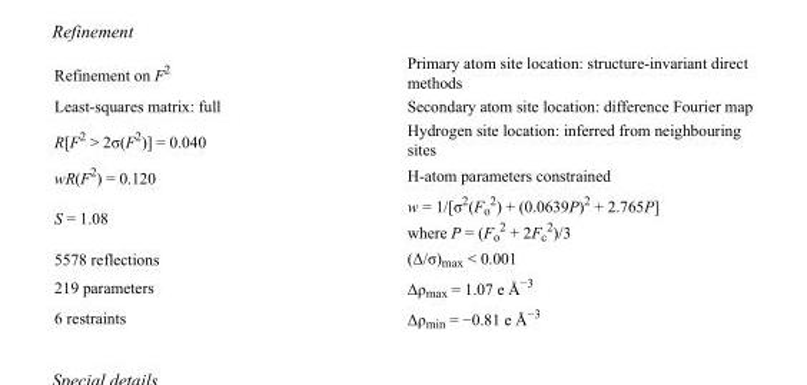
<table><tbody><tr><td>Refinement on F<sup>2</sup></td><td>Primary atom site location: structure-invariant direct methods</td></tr><tr><td>Least-squares matrix: full</td><td>Secondary atom site location: difference Fourier map</td></tr><tr><td>R[F<sup>2</sup> &gt; 2σ(F<sup>2</sup>)] = 0.040</td><td>Hydrogen site location: inferred from neighbouring sites</td></tr><tr><td>wR(F<sup>2</sup>) = 0.120</td><td>H-atom parameters constrained</td></tr><tr><td>S = 1.08</td><td>w = 1/[σ<sup>2</sup>(F<sub>o</sub> <sup>2</sup>) + (0.0639P)<sup>2</sup> + 2.765P] where P = (F<sub>o</sub> <sup>2</sup> + 2F<sub>c</sub> <sup>2</sup>)/3</td></tr><tr><td>5578 reflections</td><td>(Δ/σ)<sub>max</sub> &lt; 0.001</td></tr><tr><td>219 parameters</td><td>Δρ<sub>max</sub> = 1.07 e Å<sup>−3</sup></td></tr><tr><td>6 restraints</td><td>Δρ<sub>min</sub> = −0.81 e Å<sup>−3</sup></td></tr></tbody></table>